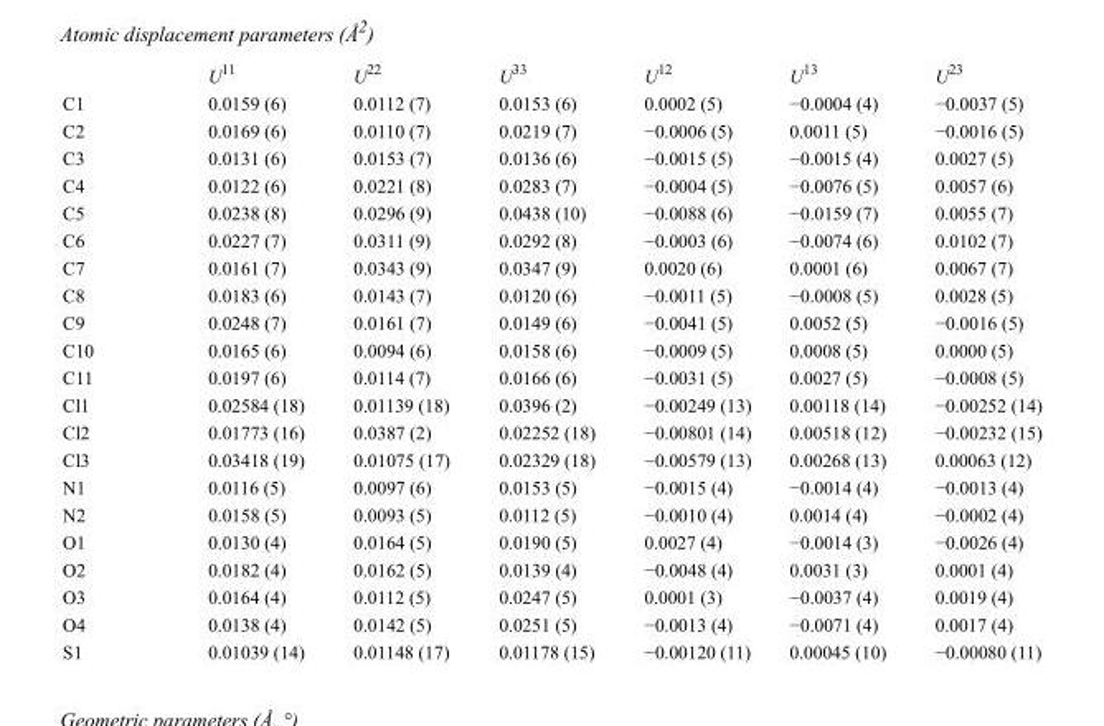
<table><thead><tr><td></td><td>U<sup>11</sup></td><td>U<sup>22</sup></td><td>U<sup>33</sup></td><td>U<sup>12</sup></td><td>U<sup>13</sup></td><td>U<sup>23</sup></td></tr></thead><tbody><tr><td>C1</td><td>0.0159 (6)</td><td>0.0112 (7)</td><td>0.0153 (6)</td><td>0.0002 (5)</td><td>−0.0004 (4)</td><td>−0.0037 (5)</td></tr><tr><td>C2</td><td>0.0169 (6)</td><td>0.0110 (7)</td><td>0.0219 (7)</td><td>−0.0006 (5)</td><td>0.0011 (5)</td><td>−0.0016 (5)</td></tr><tr><td>C3</td><td>0.0131 (6)</td><td>0.0153 (7)</td><td>0.0136 (6)</td><td>−0.0015 (5)</td><td>−0.0015 (4)</td><td>0.0027 (5)</td></tr><tr><td>C4</td><td>0.0122 (6)</td><td>0.0221 (8)</td><td>0.0283 (7)</td><td>−0.0004 (5)</td><td>−0.0076 (5)</td><td>0.0057 (6)</td></tr><tr><td>C5</td><td>0.0238 (8)</td><td>0.0296 (9)</td><td>0.0438 (10)</td><td>−0.0088 (6)</td><td>−0.0159 (7)</td><td>0.0055 (7)</td></tr><tr><td>C6</td><td>0.0227 (7)</td><td>0.0311 (9)</td><td>0.0292 (8)</td><td>−0.0003 (6)</td><td>−0.0074 (6)</td><td>0.0102 (7)</td></tr><tr><td>C7</td><td>0.0161 (7)</td><td>0.0343 (9)</td><td>0.0347 (9)</td><td>0.0020 (6)</td><td>0.0001 (6)</td><td>0.0067 (7)</td></tr><tr><td>C8</td><td>0.0183 (6)</td><td>0.0143 (7)</td><td>0.0120 (6)</td><td>−0.0011 (5)</td><td>−0.0008 (5)</td><td>0.0028 (5)</td></tr><tr><td>C9</td><td>0.0248 (7)</td><td>0.0161 (7)</td><td>0.0149 (6)</td><td>−0.0041 (5)</td><td>0.0052 (5)</td><td>−0.0016 (5)</td></tr><tr><td>C10</td><td>0.0165 (6)</td><td>0.0094 (6)</td><td>0.0158 (6)</td><td>−0.0009 (5)</td><td>0.0008 (5)</td><td>0.0000 (5)</td></tr><tr><td>C11</td><td>0.0197 (6)</td><td>0.0114 (7)</td><td>0.0166 (6)</td><td>−0.0031 (5)</td><td>0.0027 (5)</td><td>−0.0008 (5)</td></tr><tr><td>Cl1</td><td>0.02584 (18)</td><td>0.01139 (18)</td><td>0.0396 (2)</td><td>−0.00249 (13)</td><td>0.00118 (14)</td><td>−0.00252 (14)</td></tr><tr><td>Cl2</td><td>0.01773 (16)</td><td>0.0387 (2)</td><td>0.02252 (18)</td><td>−0.00801 (14)</td><td>0.00518 (12)</td><td>−0.00232 (15)</td></tr><tr><td>Cl3</td><td>0.03418 (19)</td><td>0.01075 (17)</td><td>0.02329 (18)</td><td>−0.00579 (13)</td><td>0.00268 (13)</td><td>0.00063 (12)</td></tr><tr><td>N1</td><td>0.0116 (5)</td><td>0.0097 (6)</td><td>0.0153 (5)</td><td>−0.0015 (4)</td><td>−0.0014 (4)</td><td>−0.0013 (4)</td></tr><tr><td>N2</td><td>0.0158 (5)</td><td>0.0093 (5)</td><td>0.0112 (5)</td><td>−0.0010 (4)</td><td>0.0014 (4)</td><td>−0.0002 (4)</td></tr><tr><td>O1</td><td>0.0130 (4)</td><td>0.0164 (5)</td><td>0.0190 (5)</td><td>0.0027 (4)</td><td>−0.0014 (3)</td><td>−0.0026 (4)</td></tr><tr><td>O2</td><td>0.0182 (4)</td><td>0.0162 (5)</td><td>0.0139 (4)</td><td>−0.0048 (4)</td><td>0.0031 (3)</td><td>0.0001 (4)</td></tr><tr><td>O3</td><td>0.0164 (4)</td><td>0.0112 (5)</td><td>0.0247 (5)</td><td>0.0001 (3)</td><td>−0.0037 (4)</td><td>0.0019 (4)</td></tr><tr><td>O4</td><td>0.0138 (4)</td><td>0.0142 (5)</td><td>0.0251 (5)</td><td>−0.0013 (4)</td><td>−0.0071 (4)</td><td>0.0017 (4)</td></tr><tr><td>S1</td><td>0.01039 (14)</td><td>0.01148 (17)</td><td>0.01178 (15)</td><td>−0.00120 (11)</td><td>0.00045 (10)</td><td>−0.00080 (11)</td></tr></tbody></table>